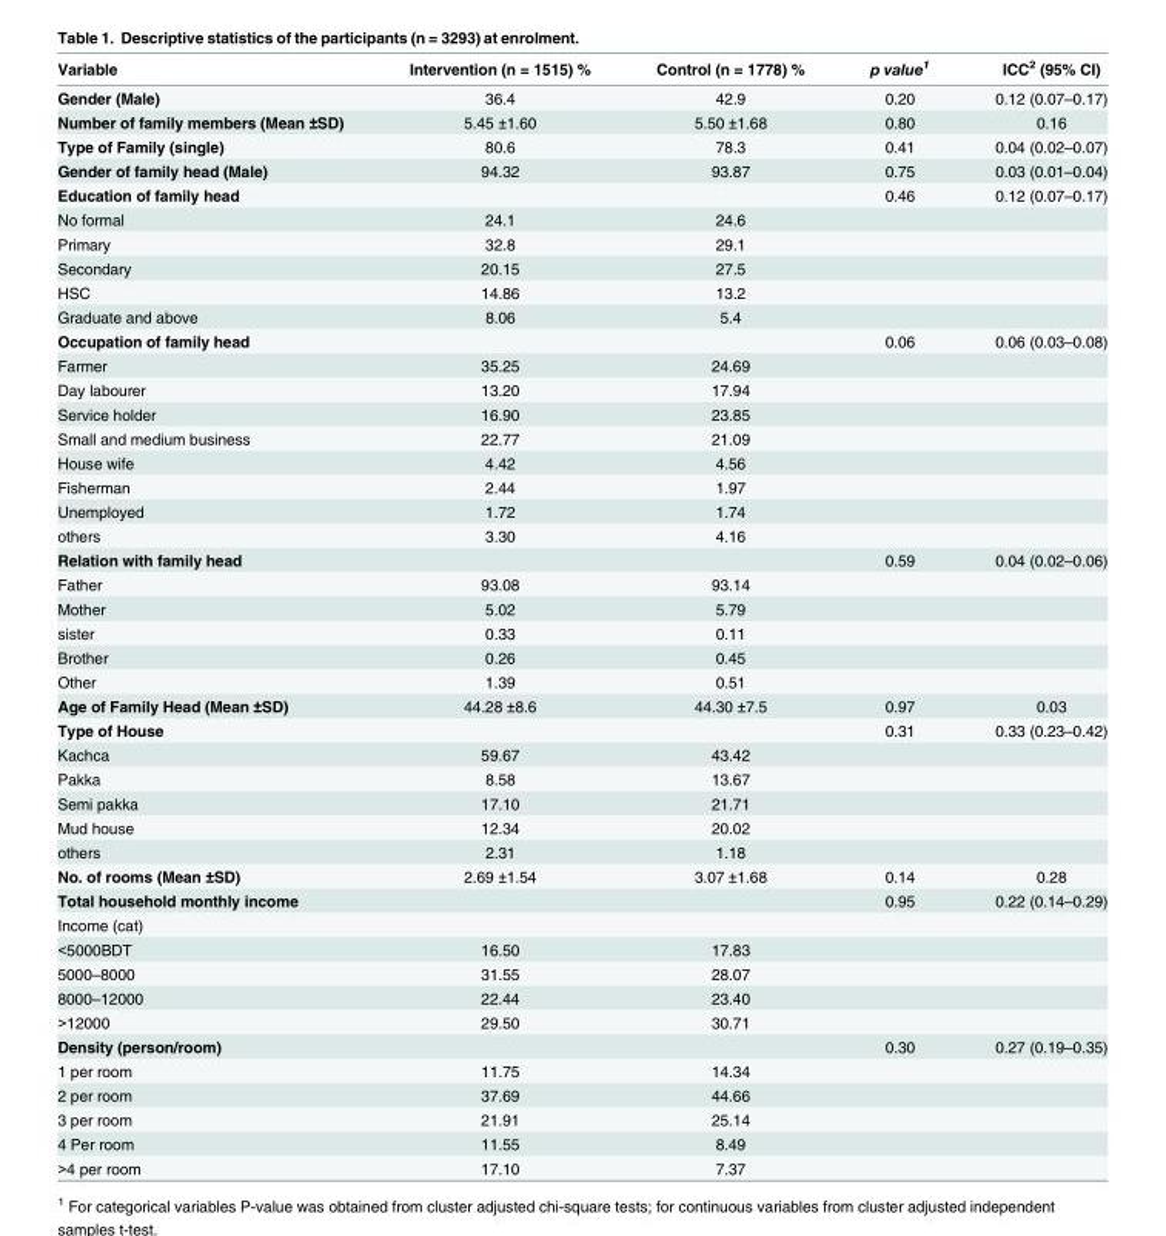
<table><thead><tr><td>Variable</td><td>Intervention (n = 1515) %</td><td>Control (n = 1778) %</td><td>p value<sup>1</sup></td><td>ICC<sup>2</sup> (95% CI)</td></tr></thead><tbody><tr><td>Gender (Male)</td><td>36.4</td><td>42.9</td><td>0.20</td><td>0.12 (0.07–0.17)</td></tr><tr><td>Number of family members (Mean ±SD)</td><td>5.45 ±1.60</td><td>5.50 ±1.68</td><td>0.80</td><td>0.16</td></tr><tr><td>Type of Family (single)</td><td>80.6</td><td>78.3</td><td>0.41</td><td>0.04 (0.02–0.07)</td></tr><tr><td>Gender of family head (Male)</td><td>94.32</td><td>93.87</td><td>0.75</td><td>0.03 (0.01–0.04)</td></tr><tr><td>Education of family head</td><td></td><td></td><td>0.46</td><td>0.12 (0.07–0.17)</td></tr><tr><td>No formal</td><td>24.1</td><td>24.6</td><td></td><td></td></tr><tr><td>Primary</td><td>32.8</td><td>29.1</td><td></td><td></td></tr><tr><td>Secondary</td><td>20.15</td><td>27.5</td><td></td><td></td></tr><tr><td>HSC</td><td>14.86</td><td>13.2</td><td></td><td></td></tr><tr><td>Graduate and above</td><td>8.06</td><td>5.4</td><td></td><td></td></tr><tr><td>Occupation of family head</td><td></td><td></td><td>0.06</td><td>0.06 (0.03–0.08)</td></tr><tr><td>Farmer</td><td>35.25</td><td>24.69</td><td></td><td></td></tr><tr><td>Day labourer</td><td>13.20</td><td>17.94</td><td></td><td></td></tr><tr><td>Service holder</td><td>16.90</td><td>23.85</td><td></td><td></td></tr><tr><td>Small and medium business</td><td>22.77</td><td>21.09</td><td></td><td></td></tr><tr><td>House wife</td><td>4.42</td><td>4.56</td><td></td><td></td></tr><tr><td>Fisherman</td><td>2.44</td><td>1.97</td><td></td><td></td></tr><tr><td>Unemployed</td><td>1.72</td><td>1.74</td><td></td><td></td></tr><tr><td>others</td><td>3.30</td><td>4.16</td><td></td><td></td></tr><tr><td>Relation with family head</td><td></td><td></td><td>0.59</td><td>0.04 (0.02–0.06)</td></tr><tr><td>Father</td><td>93.08</td><td>93.14</td><td></td><td></td></tr><tr><td>Mother</td><td>5.02</td><td>5.79</td><td></td><td></td></tr><tr><td>sister</td><td>0.33</td><td>0.11</td><td></td><td></td></tr><tr><td>Brother</td><td>0.26</td><td>0.45</td><td></td><td></td></tr><tr><td>Other</td><td>1.39</td><td>0.51</td><td></td><td></td></tr><tr><td>Age of Family Head (Mean ±SD)</td><td>44.28 ±8.6</td><td>44.30 ±7.5</td><td>0.97</td><td>0.03</td></tr><tr><td>Type of House</td><td></td><td></td><td>0.31</td><td>0.33 (0.23–0.42)</td></tr><tr><td>Kachca</td><td>59.67</td><td>43.42</td><td></td><td></td></tr><tr><td>Pakka</td><td>8.58</td><td>13.67</td><td></td><td></td></tr><tr><td>Semi pakka</td><td>17.10</td><td>21.71</td><td></td><td></td></tr><tr><td>Mud house</td><td>12.34</td><td>20.02</td><td></td><td></td></tr><tr><td>others</td><td>2.31</td><td>1.18</td><td></td><td></td></tr><tr><td>No. of rooms (Mean ±SD)</td><td>2.69 ±1.54</td><td>3.07 ±1.68</td><td>0.14</td><td>0.28</td></tr><tr><td>Total household monthly income</td><td></td><td></td><td>0.95</td><td>0.22 (0.14–0.29)</td></tr><tr><td colspan="5">Income (cat)</td></tr><tr><td>&lt;5000BDT</td><td>16.50</td><td>17.83</td><td></td><td></td></tr><tr><td>5000–8000</td><td>31.55</td><td>28.07</td><td></td><td></td></tr><tr><td>8000–12000</td><td>22.44</td><td>23.40</td><td></td><td></td></tr><tr><td>&gt;12000</td><td>29.50</td><td>30.71</td><td></td><td></td></tr><tr><td>Density (person/room)</td><td></td><td></td><td>0.30</td><td>0.27 (0.19–0.35)</td></tr><tr><td>1 per room</td><td>11.75</td><td>14.34</td><td></td><td></td></tr><tr><td>2 per room</td><td>37.69</td><td>44.66</td><td></td><td></td></tr><tr><td>3 per room</td><td>21.91</td><td>25.14</td><td></td><td></td></tr><tr><td>4 Per room</td><td>11.55</td><td>8.49</td><td></td><td></td></tr><tr><td>&gt;4 per room</td><td>17.10</td><td>7.37</td><td></td><td></td></tr></tbody></table>